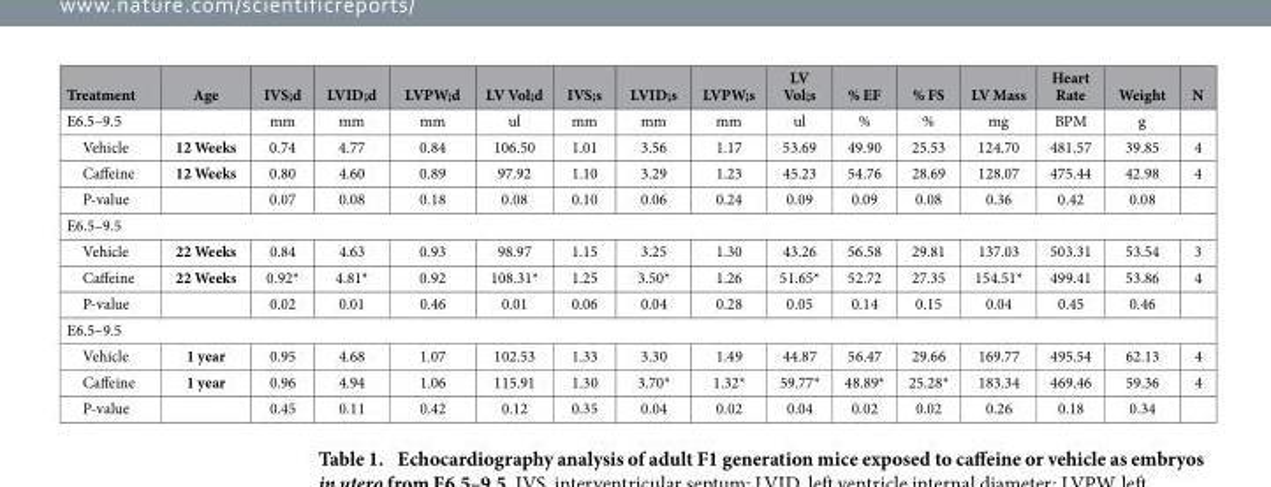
<table><thead><tr><td>Treatment</td><td>Age</td><td>IVS;d</td><td>LVID;d</td><td>LVPW;d</td><td>LV Vol;d</td><td>IVS;s</td><td>LVID;s</td><td>LVPW;s</td><td>LV Vol;s</td><td>% EF</td><td>% FS</td><td>LV Mass</td><td>Heart Rate</td><td>Weight</td><td>N</td></tr></thead><tbody><tr><td>E6.5–9.5</td><td></td><td>mm</td><td>mm</td><td>mm</td><td>ul</td><td>mm</td><td>mm</td><td>mm</td><td>ul</td><td>%</td><td>%</td><td>mg</td><td>BPM</td><td>g</td><td></td></tr><tr><td>Vehicle</td><td>12 Weeks</td><td>0.74</td><td>4.77</td><td>0.84</td><td>106.50</td><td>1.01</td><td>3.56</td><td>1.17</td><td>53.69</td><td>49.90</td><td>25.53</td><td>124.70</td><td>481.57</td><td>39.85</td><td>4</td></tr><tr><td>Caffeine</td><td>12 Weeks</td><td>0.80</td><td>4.60</td><td>0.89</td><td>97.92</td><td>1.10</td><td>3.29</td><td>1.23</td><td>45.23</td><td>54.76</td><td>28.69</td><td>128.07</td><td>475.44</td><td>42.98</td><td>4</td></tr><tr><td>P-value</td><td></td><td>0.07</td><td>0.08</td><td>0.18</td><td>0.08</td><td>0.10</td><td>0.06</td><td>0.24</td><td>0.09</td><td>0.09</td><td>0.08</td><td>0.36</td><td>0.42</td><td>0.08</td><td></td></tr><tr><td colspan="16">E6.5–9.5</td></tr><tr><td>Vehicle</td><td>22 Weeks</td><td>0.84</td><td>4.63</td><td>0.93</td><td>98.97</td><td>1.15</td><td>3.25</td><td>1.30</td><td>43.26</td><td>56.58</td><td>29.81</td><td>137.03</td><td>503.31</td><td>53.54</td><td>3</td></tr><tr><td>Caffeine</td><td>22 Weeks</td><td>0.92*</td><td>4.81*</td><td>0.92</td><td>108.31*</td><td>1.25</td><td>3.50*</td><td>1.26</td><td>51.65*</td><td>52.72</td><td>27.35</td><td>154.51*</td><td>499.41</td><td>53.86</td><td>4</td></tr><tr><td>P-value</td><td></td><td>0.02</td><td>0.01</td><td>0.46</td><td>0.01</td><td>0.06</td><td>0.04</td><td>0.28</td><td>0.05</td><td>0.14</td><td>0.15</td><td>0.04</td><td>0.45</td><td>0.46</td><td></td></tr><tr><td colspan="16">E6.5–9.5</td></tr><tr><td>Vehicle</td><td>1 year</td><td>0.95</td><td>4.68</td><td>1.07</td><td>102.53</td><td>1.33</td><td>3.30</td><td>1.49</td><td>44.87</td><td>56.47</td><td>29.66</td><td>169.77</td><td>495.54</td><td>62.13</td><td>4</td></tr><tr><td>Caffeine</td><td>1 year</td><td>0.96</td><td>4.94</td><td>1.06</td><td>115.91</td><td>1.30</td><td>3.70*</td><td>1.32*</td><td>59.77*</td><td>48.89*</td><td>25.28*</td><td>183.34</td><td>469.46</td><td>59.36</td><td>4</td></tr><tr><td>P-value</td><td></td><td>0.45</td><td>0.11</td><td>0.42</td><td>0.12</td><td>0.35</td><td>0.04</td><td>0.02</td><td>0.04</td><td>0.02</td><td>0.02</td><td>0.26</td><td>0.18</td><td>0.34</td><td></td></tr></tbody></table>